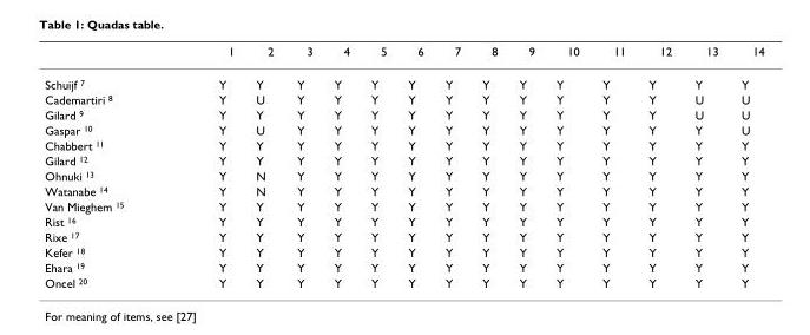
<table><thead><tr><td></td><td>1</td><td>2</td><td>3</td><td>4</td><td>5</td><td>6</td><td>7</td><td>8</td><td>9</td><td>10</td><td>11</td><td>12</td><td>13</td><td>14</td></tr></thead><tbody><tr><td>Schuijf <sup>7</sup></td><td>Y</td><td>Y</td><td>Y</td><td>Y</td><td>Y</td><td>Y</td><td>Y</td><td>Y</td><td>Y</td><td>Y</td><td>Y</td><td>Y</td><td>Y</td><td>Y</td></tr><tr><td>Cademartiri <sup>8</sup></td><td>Y</td><td>U</td><td>Y</td><td>Y</td><td>Y</td><td>Y</td><td>Y</td><td>Y</td><td>Y</td><td>Y</td><td>Y</td><td>Y</td><td>U</td><td>U</td></tr><tr><td>Gilard <sup>9</sup></td><td>Y</td><td>Y</td><td>Y</td><td>Y</td><td>Y</td><td>Y</td><td>Y</td><td>Y</td><td>Y</td><td>Y</td><td>Y</td><td>Y</td><td>U</td><td>U</td></tr><tr><td>Gaspar <sup>10</sup></td><td>Y</td><td>U</td><td>Y</td><td>Y</td><td>Y</td><td>Y</td><td>Y</td><td>Y</td><td>Y</td><td>Y</td><td>Y</td><td>Y</td><td>Y</td><td>U</td></tr><tr><td>Chabbert <sup>11</sup></td><td>Y</td><td>Y</td><td>Y</td><td>Y</td><td>Y</td><td>Y</td><td>Y</td><td>Y</td><td>Y</td><td>Y</td><td>Y</td><td>Y</td><td>Y</td><td>Y</td></tr><tr><td>Gilard <sup>12</sup></td><td>Y</td><td>Y</td><td>Y</td><td>Y</td><td>Y</td><td>Y</td><td>Y</td><td>Y</td><td>Y</td><td>Y</td><td>Y</td><td>Y</td><td>Y</td><td>Y</td></tr><tr><td>Ohnuki <sup>13</sup></td><td>Y</td><td>N</td><td>Y</td><td>Y</td><td>Y</td><td>Y</td><td>Y</td><td>Y</td><td>Y</td><td>Y</td><td>Y</td><td>Y</td><td>Y</td><td>Y</td></tr><tr><td>Watanabe <sup>14</sup></td><td>Y</td><td>N</td><td>Y</td><td>Y</td><td>Y</td><td>Y</td><td>Y</td><td>Y</td><td>Y</td><td>Y</td><td>Y</td><td>Y</td><td>Y</td><td>Y</td></tr><tr><td>Van Mieghem <sup>15</sup></td><td>Y</td><td>Y</td><td>Y</td><td>Y</td><td>Y</td><td>Y</td><td>Y</td><td>Y</td><td>Y</td><td>Y</td><td>Y</td><td>Y</td><td>Y</td><td>Y</td></tr><tr><td>Rist <sup>16</sup></td><td>Y</td><td>Y</td><td>Y</td><td>Y</td><td>Y</td><td>Y</td><td>Y</td><td>Y</td><td>Y</td><td>Y</td><td>Y</td><td>Y</td><td>Y</td><td>Y</td></tr><tr><td>Rixe <sup>17</sup></td><td>Y</td><td>Y</td><td>Y</td><td>Y</td><td>Y</td><td>Y</td><td>Y</td><td>Y</td><td>Y</td><td>Y</td><td>Y</td><td>Y</td><td>Y</td><td>Y</td></tr><tr><td>Kefer <sup>18</sup></td><td>Y</td><td>Y</td><td>Y</td><td>Y</td><td>Y</td><td>Y</td><td>Y</td><td>Y</td><td>Y</td><td>Y</td><td>Y</td><td>Y</td><td>Y</td><td>Y</td></tr><tr><td>Ehara <sup>19</sup></td><td>Y</td><td>Y</td><td>Y</td><td>Y</td><td>Y</td><td>Y</td><td>Y</td><td>Y</td><td>Y</td><td>Y</td><td>Y</td><td>Y</td><td>Y</td><td>Y</td></tr><tr><td>Oncel <sup>20</sup></td><td>Y</td><td>Y</td><td>Y</td><td>Y</td><td>Y</td><td>Y</td><td>Y</td><td>Y</td><td>Y</td><td>Y</td><td>Y</td><td>Y</td><td>Y</td><td>Y</td></tr></tbody></table>